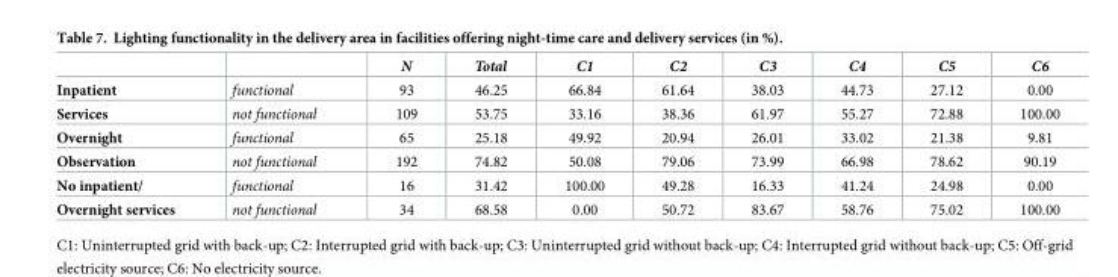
<table><thead><tr><td></td><td></td><td>N</td><td>Total</td><td>C1</td><td>C2</td><td>C3</td><td>C4</td><td>C5</td><td>C6</td></tr></thead><tbody><tr><td>Inpatient</td><td>functional</td><td>93</td><td>46.25</td><td>66.84</td><td>61.64</td><td>38.03</td><td>44.73</td><td>27.12</td><td>0.00</td></tr><tr><td>Services</td><td>not functional</td><td>109</td><td>53.75</td><td>33.16</td><td>38.36</td><td>61.97</td><td>55.27</td><td>72.88</td><td>100.00</td></tr><tr><td>Overnight</td><td>functional</td><td>65</td><td>25.18</td><td>49.92</td><td>20.94</td><td>26.01</td><td>33.02</td><td>21.38</td><td>9.81</td></tr><tr><td>Observation</td><td>not functional</td><td>192</td><td>74.82</td><td>50.08</td><td>79.06</td><td>73.99</td><td>66.98</td><td>78.62</td><td>90.19</td></tr><tr><td>No inpatient/</td><td>functional</td><td>16</td><td>31.42</td><td>100.00</td><td>49.28</td><td>16.33</td><td>41.24</td><td>24.98</td><td>0.00</td></tr><tr><td>Overnight services</td><td>not functional</td><td>34</td><td>68.58</td><td>0.00</td><td>50.72</td><td>83.67</td><td>58.76</td><td>75.02</td><td>100.00</td></tr></tbody></table>